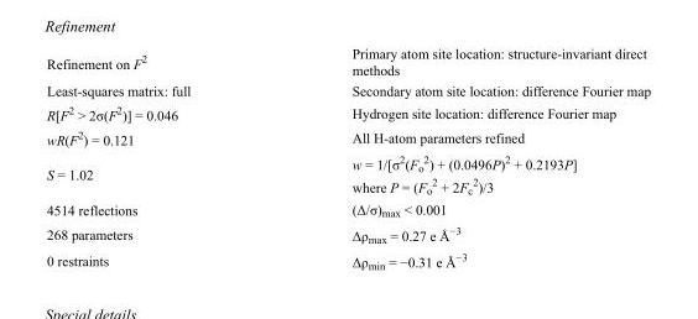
<table><tbody><tr><td>Refinement on F<sup>2</sup></td><td>Primary atom site location: structure-invariant direct methods</td></tr><tr><td>Least-squares matrix: full</td><td>Secondary atom site location: difference Fourier map</td></tr><tr><td>R[F<sup>2</sup> &gt; 2σ(F<sup>2</sup>)] = 0.046</td><td>Hydrogen site location: difference Fourier map</td></tr><tr><td>wR(F<sup>2</sup>) = 0.121</td><td>All H-atom parameters refined</td></tr><tr><td>S = 1.02</td><td>w = 1/[σ<sup>2</sup>(F<sub>o</sub> <sup>2</sup>) + (0.0496P)<sup>2</sup> + 0.2193P] where P = (F<sub>o</sub> <sup>2</sup> + 2F<sub>c</sub> <sup>2</sup>)/3</td></tr><tr><td>4514 reflections</td><td>(Δ/σ)<sub>max</sub> &lt; 0.001</td></tr><tr><td>268 parameters</td><td>Δρ<sub>max</sub> = 0.27 e Å<sup>−3</sup></td></tr><tr><td>0 restraints</td><td>Δρ<sub>min</sub> = −0.31 e Å<sup>−3</sup></td></tr></tbody></table>